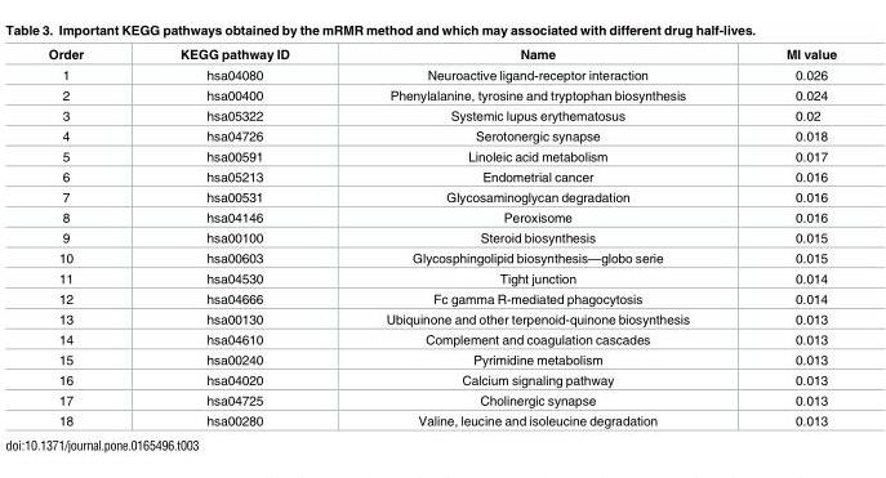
<table><thead><tr><td>Order</td><td>KEGG pathway ID</td><td>Name</td><td>MI value</td></tr></thead><tbody><tr><td>1</td><td>hsa04080</td><td>Neuroactive ligand-receptor interaction</td><td>0.026</td></tr><tr><td>2</td><td>hsa00400</td><td>Phenylalanine, tyrosine and tryptophan biosynthesis</td><td>0.024</td></tr><tr><td>3</td><td>hsa05322</td><td>Systemic lupus erythematosus</td><td>0.02</td></tr><tr><td>4</td><td>hsa04726</td><td>Serotonergic synapse</td><td>0.018</td></tr><tr><td>5</td><td>hsa00591</td><td>Linoleic acid metabolism</td><td>0.017</td></tr><tr><td>6</td><td>hsa05213</td><td>Endometrial cancer</td><td>0.016</td></tr><tr><td>7</td><td>hsa00531</td><td>Glycosaminoglycan degradation</td><td>0.016</td></tr><tr><td>8</td><td>hsa04146</td><td>Peroxisome</td><td>0.016</td></tr><tr><td>9</td><td>hsa00100</td><td>Steroid biosynthesis</td><td>0.015</td></tr><tr><td>10</td><td>hsa00603</td><td>Glycosphingolipid biosynthesis—globo serie</td><td>0.015</td></tr><tr><td>11</td><td>hsa04530</td><td>Tight junction</td><td>0.014</td></tr><tr><td>12</td><td>hsa04666</td><td>Fc gamma R-mediated phagocytosis</td><td>0.014</td></tr><tr><td>13</td><td>hsa00130</td><td>Ubiquinone and other terpenoid-quinone biosynthesis</td><td>0.013</td></tr><tr><td>14</td><td>hsa04610</td><td>Complement and coagulation cascades</td><td>0.013</td></tr><tr><td>15</td><td>hsa00240</td><td>Pyrimidine metabolism</td><td>0.013</td></tr><tr><td>16</td><td>hsa04020</td><td>Calcium signaling pathway</td><td>0.013</td></tr><tr><td>17</td><td>hsa04725</td><td>Cholinergic synapse</td><td>0.013</td></tr><tr><td>18</td><td>hsa00280</td><td>Valine, leucine and isoleucine degradation</td><td>0.013</td></tr></tbody></table>